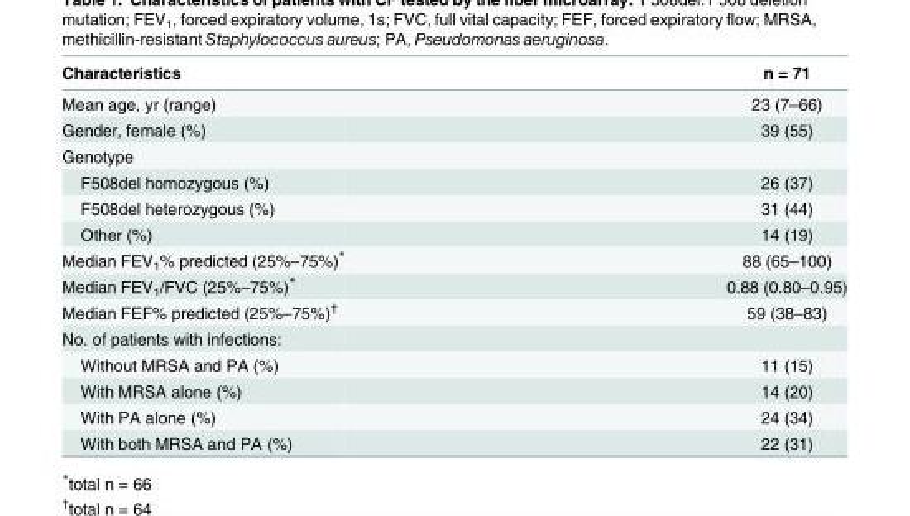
<table><thead><tr><td>Characteristics</td><td>n = 71</td></tr></thead><tbody><tr><td>Mean age, yr (range)</td><td>23 (7–66)</td></tr><tr><td>Gender, female (%)</td><td>39 (55)</td></tr><tr><td colspan="2">Genotype</td></tr><tr><td>F508del homozygous (%)</td><td>26 (37)</td></tr><tr><td>F508del heterozygous (%)</td><td>31 (44)</td></tr><tr><td>Other (%)</td><td>14 (19)</td></tr><tr><td>Median FEV<sub>1</sub>% predicted (25%–75%)*</td><td>88 (65–100)</td></tr><tr><td>Median FEV<sub>1</sub>/FVC (25%–75%)*</td><td>0.88 (0.80–0.95)</td></tr><tr><td>Median FEF% predicted (25%–75%)<sup>†</sup></td><td>59 (38–83)</td></tr><tr><td colspan="2">No. of patients with infections:</td></tr><tr><td>Without MRSA and PA (%)</td><td>11 (15)</td></tr><tr><td>With MRSA alone (%)</td><td>14 (20)</td></tr><tr><td>With PA alone (%)</td><td>24 (34)</td></tr><tr><td>With both MRSA and PA (%)</td><td>22 (31)</td></tr></tbody></table>